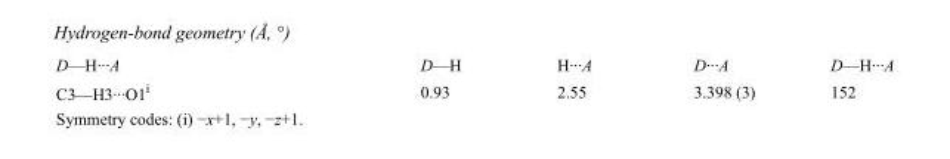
<table><tbody><tr><td>D—H···A</td><td>D—H</td><td>H···A</td><td>D···A</td><td>D—H···A</td></tr><tr><td>C3—H3···O1<sup>i</sup></td><td>0.93</td><td>2.55</td><td>3.398 (3)</td><td>152</td></tr></tbody></table>